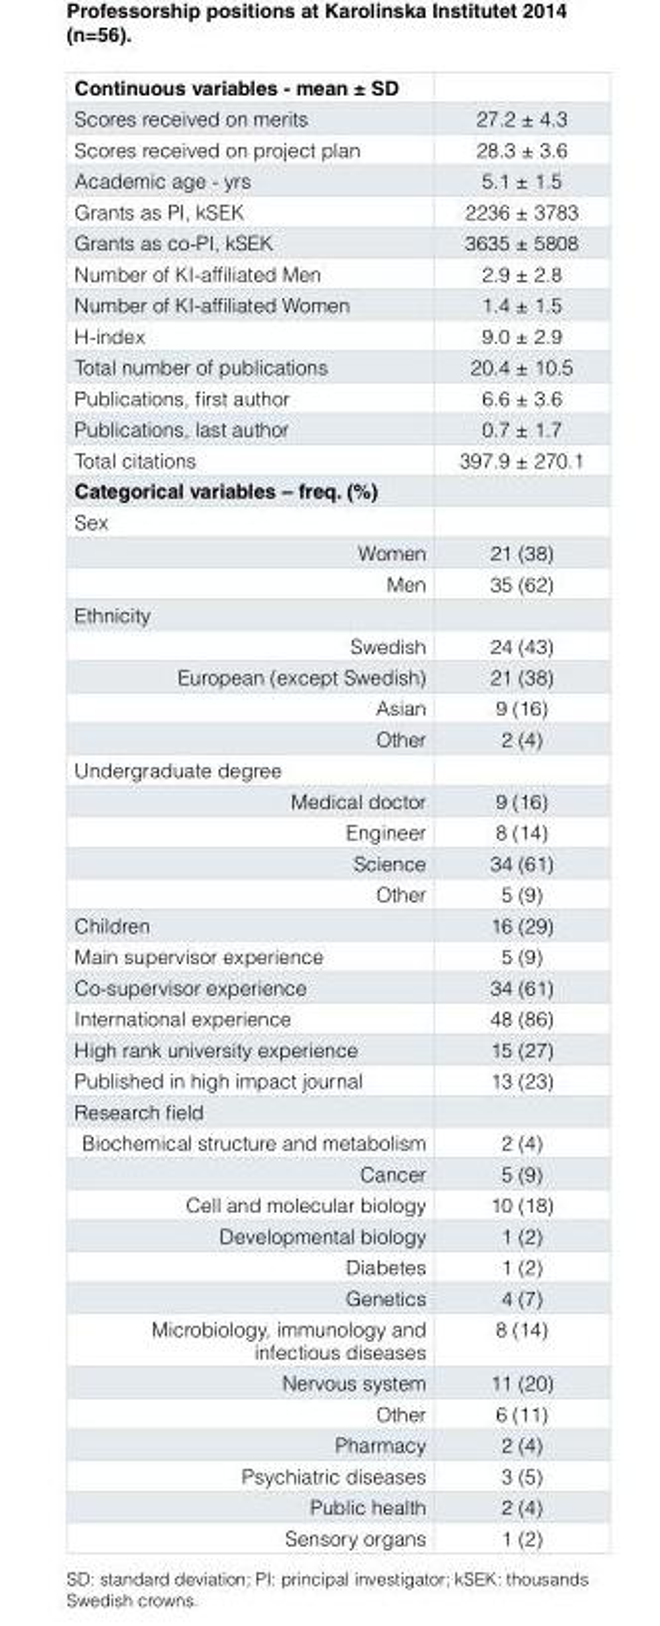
<table><tbody><tr><td colspan="2">Continuous variables - mean ± SD</td></tr><tr><td>Scores received on merits</td><td>27.2 ± 4.3</td></tr><tr><td>Scores received on project plan</td><td>28.3 ± 3.6</td></tr><tr><td>Academic age - yrs</td><td>5.1 ± 1.5</td></tr><tr><td>Grants as PI, kSEK</td><td>2236 ± 3783</td></tr><tr><td>Grants as co-PI, kSEK</td><td>3635 ± 5808</td></tr><tr><td>Number of KI-affiliated Men</td><td>2.9 ± 2.8</td></tr><tr><td>Number of KI-affiliated Women</td><td>1.4 ± 1.5</td></tr><tr><td>H-index</td><td>9.0 ± 2.9</td></tr><tr><td>Total number of publications</td><td>20.4 ± 10.5</td></tr><tr><td>Publications, first author</td><td>6.6 ± 3.6</td></tr><tr><td>Publications, last author</td><td>0.7 ± 1.7</td></tr><tr><td>Total citations</td><td>397.9 ± 270.1</td></tr><tr><td colspan="2">Categorical variables – freq. (%)</td></tr><tr><td colspan="2">Sex</td></tr><tr><td>Women</td><td>21 (38)</td></tr><tr><td>Men</td><td>35 (62)</td></tr><tr><td colspan="2">Ethnicity</td></tr><tr><td>Swedish</td><td>24 (43)</td></tr><tr><td>European (except Swedish)</td><td>21 (38)</td></tr><tr><td>Asian</td><td>9 (16)</td></tr><tr><td>Other</td><td>2 (4)</td></tr><tr><td colspan="2">Undergraduate degree</td></tr><tr><td>Medical doctor</td><td>9 (16)</td></tr><tr><td>Engineer</td><td>8 (14)</td></tr><tr><td>Science</td><td>34 (61)</td></tr><tr><td>Other</td><td>5 (9)</td></tr><tr><td>Children</td><td>16 (29)</td></tr><tr><td>Main supervisor experience</td><td>5 (9)</td></tr><tr><td>Co-supervisor experience</td><td>34 (61)</td></tr><tr><td>International experience</td><td>48 (86)</td></tr><tr><td>High rank university experience</td><td>15 (27)</td></tr><tr><td>Published in high impact journal</td><td>13 (23)</td></tr><tr><td colspan="2">Research field</td></tr><tr><td>Biochemical structure and metabolism</td><td>2 (4)</td></tr><tr><td>Cancer</td><td>5 (9)</td></tr><tr><td>Cell and molecular biology</td><td>10 (18)</td></tr><tr><td>Developmental biology</td><td>1 (2)</td></tr><tr><td>Diabetes</td><td>1 (2)</td></tr><tr><td>Genetics</td><td>4 (7)</td></tr><tr><td>Microbiology, immunology and infectious diseases</td><td>8 (14)</td></tr><tr><td>Nervous system</td><td>11 (20)</td></tr><tr><td>Other</td><td>6 (11)</td></tr><tr><td>Pharmacy</td><td>2 (4)</td></tr><tr><td>Psychiatric diseases</td><td>3 (5)</td></tr><tr><td>Public health</td><td>2 (4)</td></tr><tr><td>Sensory organs</td><td>1 (2)</td></tr></tbody></table>